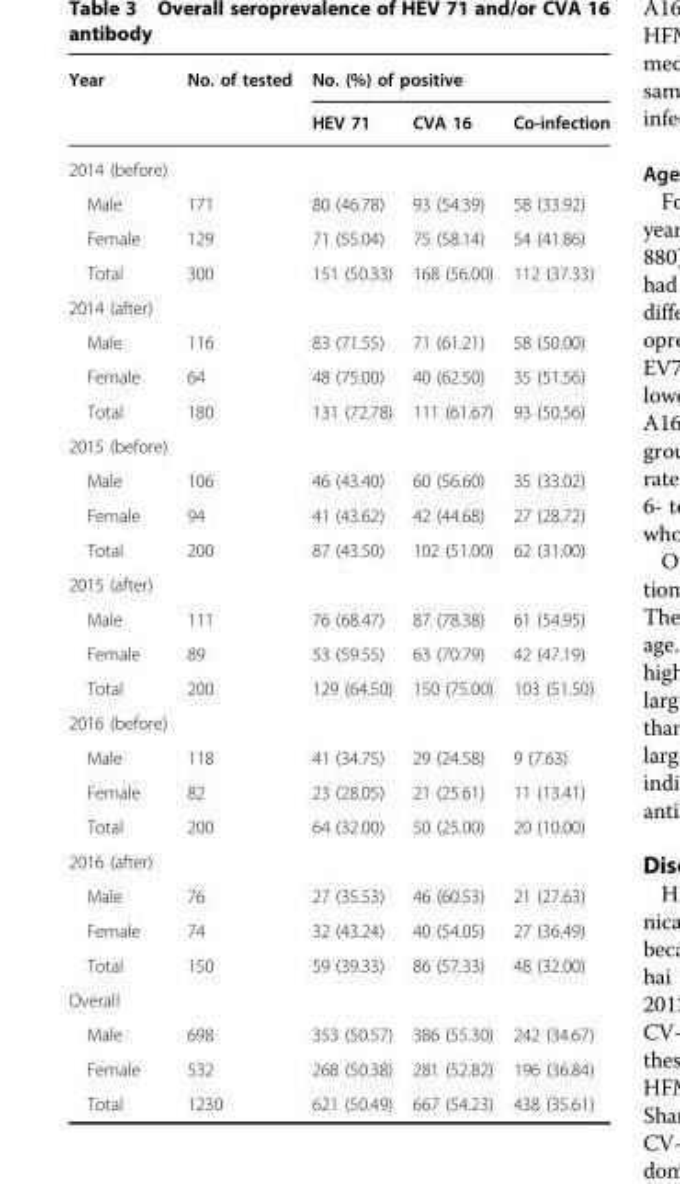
<table><thead><tr><td rowspan="2">Year</td><td rowspan="2">No. of tested</td><td colspan="3">No. (%) of positive</td></tr><tr><td>HEV 71</td><td>CVA 16</td><td>Co-infection</td></tr></thead><tbody><tr><td colspan="5">2014 (before)</td></tr><tr><td>Male</td><td>171</td><td>80 (46.78)</td><td>93 (54.39)</td><td>58 (33.92)</td></tr><tr><td>Female</td><td>129</td><td>71 (55.04)</td><td>75 (58.14)</td><td>54 (41.86)</td></tr><tr><td>Total</td><td>300</td><td>151 (50.33)</td><td>168 (56.00)</td><td>112 (37.33)</td></tr><tr><td colspan="5">2014 (after)</td></tr><tr><td>Male</td><td>116</td><td>83 (71.55)</td><td>71 (61.21)</td><td>58 (50.00)</td></tr><tr><td>Female</td><td>64</td><td>48 (75.00)</td><td>40 (62.50)</td><td>35 (51.56)</td></tr><tr><td>Total</td><td>180</td><td>131 (72.78)</td><td>111 (61.67)</td><td>93 (50.56)</td></tr><tr><td colspan="5">2015 (before)</td></tr><tr><td>Male</td><td>106</td><td>46 (43.40)</td><td>60 (56.60)</td><td>35 (33.02)</td></tr><tr><td>Female</td><td>94</td><td>41 (43.62)</td><td>42 (44.68)</td><td>27 (28.72)</td></tr><tr><td>Total</td><td>200</td><td>87 (43.50)</td><td>102 (51.00)</td><td>62 (31.00)</td></tr><tr><td colspan="5">2015 (after)</td></tr><tr><td>Male</td><td>111</td><td>76 (68.47)</td><td>87 (78.38)</td><td>61 (54.95)</td></tr><tr><td>Female</td><td>89</td><td>53 (59.55)</td><td>63 (70.79)</td><td>42 (47.19)</td></tr><tr><td>Total</td><td>200</td><td>129 (64.50)</td><td>150 (75.00)</td><td>103 (51.50)</td></tr><tr><td colspan="5">2016 (before)</td></tr><tr><td>Male</td><td>118</td><td>41 (34.75)</td><td>29 (24.58)</td><td>9 (7.63)</td></tr><tr><td>Female</td><td>82</td><td>23 (28.05)</td><td>21 (25.61)</td><td>11 (13.41)</td></tr><tr><td>Total</td><td>200</td><td>64 (32.00)</td><td>50 (25.00)</td><td>20 (10.00)</td></tr><tr><td colspan="5">2016 (after)</td></tr><tr><td>Male</td><td>76</td><td>27 (35.53)</td><td>46 (60.53)</td><td>21 (27.63)</td></tr><tr><td>Female</td><td>74</td><td>32 (43.24)</td><td>40 (54.05)</td><td>27 (36.49)</td></tr><tr><td>Total</td><td>150</td><td>59 (39.33)</td><td>86 (57.33)</td><td>48 (32.00)</td></tr><tr><td colspan="5">Overall</td></tr><tr><td>Male</td><td>698</td><td>353 (50.57)</td><td>386 (55.30)</td><td>242 (34.67)</td></tr><tr><td>Female</td><td>532</td><td>268 (50.38)</td><td>281 (52.82)</td><td>196 (36.84)</td></tr><tr><td>Total</td><td>1230</td><td>621 (50.49)</td><td>667 (54.23)</td><td>438 (35.61)</td></tr></tbody></table>